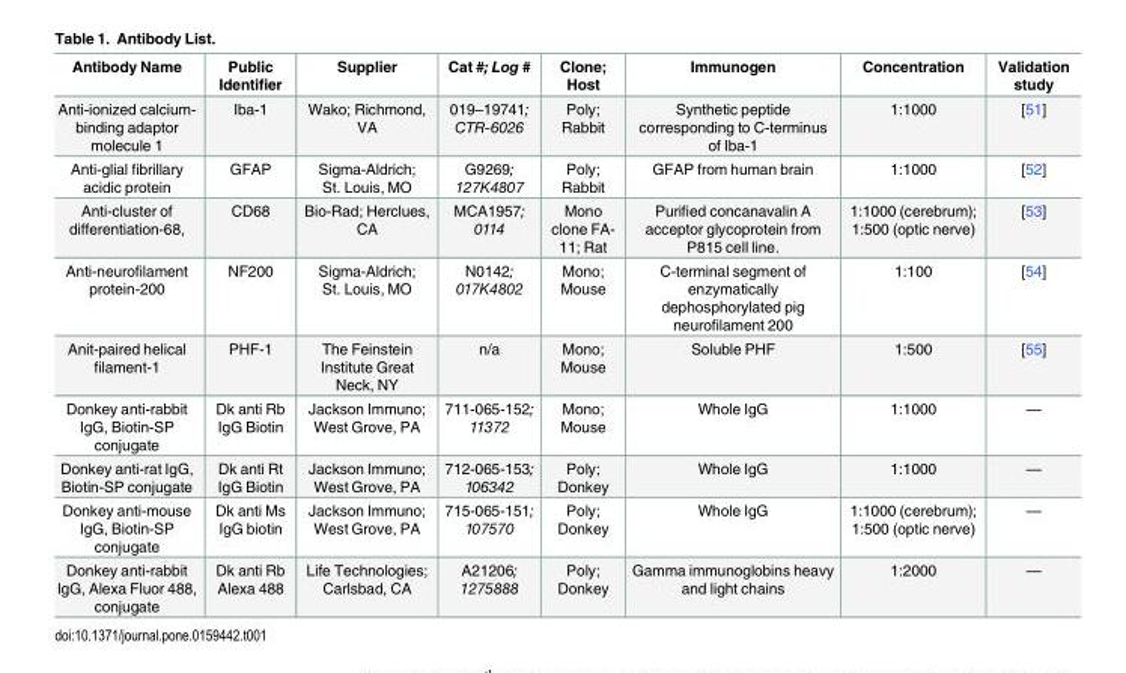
<table><thead><tr><td>Antibody Name</td><td>Public Identifier</td><td>Supplier</td><td>Cat #; Log #</td><td>Clone; Host</td><td>Immunogen</td><td>Concentration</td><td>Validation study</td></tr></thead><tbody><tr><td>Anti-ionized calcium- binding adaptor molecule 1</td><td>Iba-1</td><td>Wako; Richmond, VA</td><td>019–19741; CTR-6026</td><td>Poly; Rabbit</td><td>Synthetic peptide corresponding to C-terminus of Iba-1</td><td>1:1000</td><td>[51]</td></tr><tr><td>Anti-glial fibrillary acidic protein</td><td>GFAP</td><td>Sigma-Aldrich; St. Louis, MO</td><td>G9269; 127K4807</td><td>Poly; Rabbit</td><td>GFAP from human brain</td><td>1:1000</td><td>[52]</td></tr><tr><td>Anti-cluster of differentiation-68,</td><td>CD68</td><td>Bio-Rad; Herclues, CA</td><td>MCA1957; 0114</td><td>Mono clone FA- 11; Rat</td><td>Purified concanavalin A acceptor glycoprotein from P815 cell line.</td><td>1:1000 (cerebrum); 1:500 (optic nerve)</td><td>[53]</td></tr><tr><td>Anti-neurofilament protein-200</td><td>NF200</td><td>Sigma-Aldrich; St. Louis, MO</td><td>N0142; 017K4802</td><td>Mono; Mouse</td><td>C-terminal segment of enzymatically dephosphorylated pig neurofilament 200</td><td>1:100</td><td>[54]</td></tr><tr><td>Anit-paired helical filament-1</td><td>PHF-1</td><td>The Feinstein Institute Great Neck, NY</td><td>n/a</td><td>Mono; Mouse</td><td>Soluble PHF</td><td>1:500</td><td>[55]</td></tr><tr><td>Donkey anti-rabbit IgG, Biotin-SP conjugate</td><td>Dk anti Rb IgG Biotin</td><td>Jackson Immuno; West Grove, PA</td><td>711-065-152; 11372</td><td>Mono; Mouse</td><td>Whole IgG</td><td>1:1000</td><td>—</td></tr><tr><td>Donkey anti-rat IgG, Biotin-SP conjugate</td><td>Dk anti Rt IgG Biotin</td><td>Jackson Immuno; West Grove, PA</td><td>712-065-153; 106342</td><td>Poly; Donkey</td><td>Whole IgG</td><td>1:1000</td><td>—</td></tr><tr><td>Donkey anti-mouse IgG, Biotin-SP conjugate</td><td>Dk anti Ms IgG biotin</td><td>Jackson Immuno; West Grove, PA</td><td>715-065-151; 107570</td><td>Poly; Donkey</td><td>Whole IgG</td><td>1:1000 (cerebrum); 1:500 (optic nerve)</td><td>—</td></tr><tr><td>Donkey anti-rabbit IgG, Alexa Fluor 488, conjugate</td><td>Dk anti Rb Alexa 488</td><td>Life Technologies; Carlsbad, CA</td><td>A21206; 1275888</td><td>Poly; Donkey</td><td>Gamma immunoglobins heavy and light chains</td><td>1:2000</td><td>—</td></tr></tbody></table>